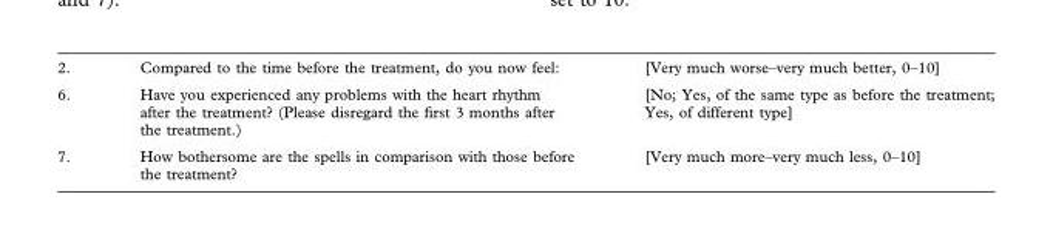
<table><tbody><tr><td>2.</td><td>Compared to the time before the treatment, do you now feel:</td><td>[Very much worse–very much better, 0–10]</td></tr><tr><td>6.</td><td>Have you experienced any problems with the heart rhythm after the treatment? (Please disregard the first 3 months after the treatment.)</td><td>[No; Yes, of the same type as before the treatment; Yes, of different type]</td></tr><tr><td>7.</td><td>How bothersome are the spells in comparison with those before the treatment?</td><td>[Very much more–very much less, 0–10]</td></tr></tbody></table>